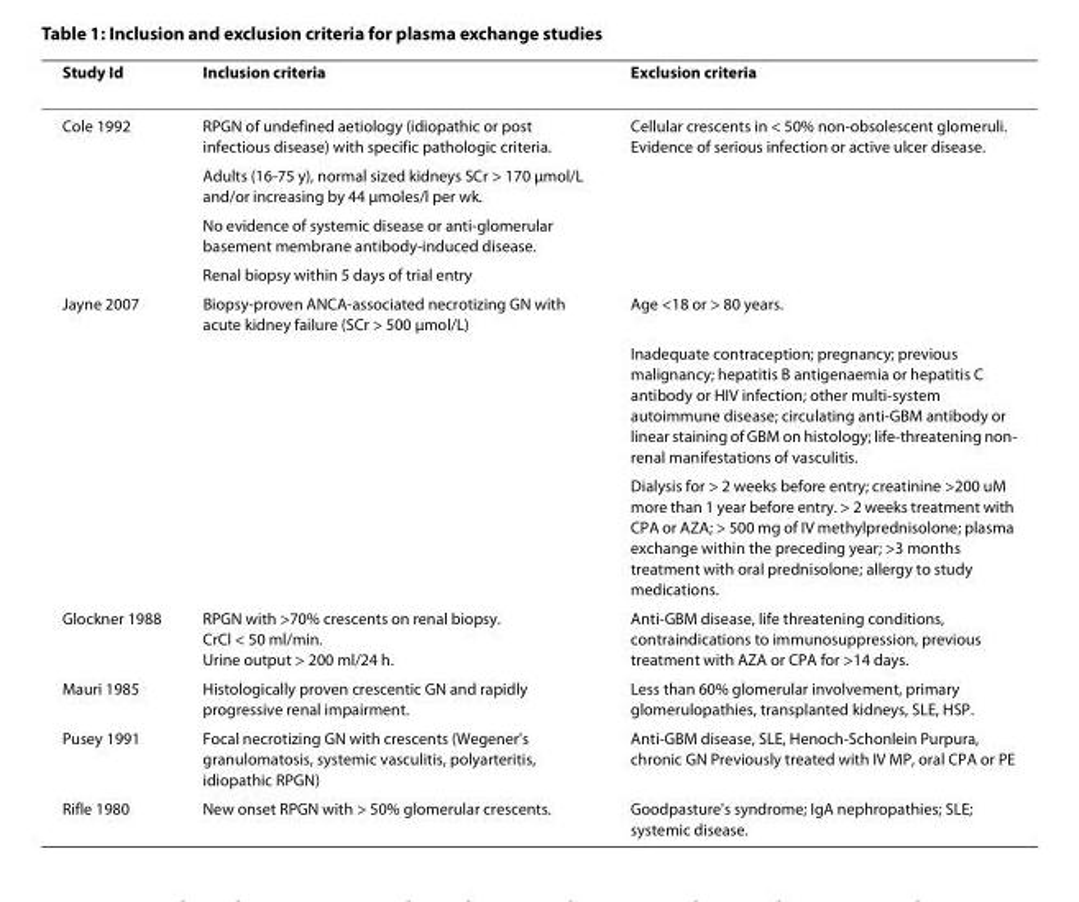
<table><thead><tr><td>Study Id</td><td>Inclusion criteria</td><td>Exclusion criteria</td></tr></thead><tbody><tr><td rowspan="4">Cole 1992</td><td>RPGN of undefined aetiology (idiopathic or post infectious disease) with specific pathologic criteria.</td><td>Cellular crescents in &lt; 50% non-obsolescent glomeruli. Evidence of serious infection or active ulcer disease.</td></tr><tr><td>Adults (16-75 y), normal sized kidneys SCr &gt; 170 μmol/L and/or increasing by 44 μmoles/l per wk.</td><td></td></tr><tr><td>No evidence of systemic disease or anti-glomerular basement membrane antibody-induced disease.</td><td></td></tr><tr><td>Renal biopsy within 5 days of trial entry</td><td></td></tr><tr><td rowspan="3">Jayne 2007</td><td>Biopsy-proven ANCA-associated necrotizing GN with acute kidney failure (SCr &gt; 500 μmol/L)</td><td>Age &lt;18 or &gt; 80 years.</td></tr><tr><td></td><td>Inadequate contraception; pregnancy; previous malignancy; hepatitis B antigenaemia or hepatitis C antibody or HIV infection; other multi-system autoimmune disease; circulating anti-GBM antibody or linear staining of GBM on histology; life-threatening non- renal manifestations of vasculitis.</td></tr><tr><td></td><td>Dialysis for &gt; 2 weeks before entry; creatinine &gt;200 uM more than 1 year before entry. &gt; 2 weeks treatment with CPA or AZA; &gt; 500 mg of IV methylprednisolone; plasma exchange within the preceding year; &gt;3 months treatment with oral prednisolone; allergy to study medications.</td></tr><tr><td>Glockner 1988</td><td>RPGN with &gt;70% crescents on renal biopsy. CrCl &lt; 50 ml/min. Urine output &gt; 200 ml/24 h.</td><td>Anti-GBM disease, life threatening conditions, contraindications to immunosuppression, previous treatment with AZA or CPA for &gt;14 days.</td></tr><tr><td>Mauri 1985</td><td>Histologically proven crescentic GN and rapidly progressive renal impairment.</td><td>Less than 60% glomerular involvement, primary glomerulopathies, transplanted kidneys, SLE, HSP.</td></tr><tr><td>Pusey 1991</td><td>Focal necrotizing GN with crescents (Wegener&#x27;s granulomatosis, systemic vasculitis, polyarteritis, idiopathic RPGN)</td><td>Anti-GBM disease, SLE, Henoch-Schonlein Purpura, chronic GN Previously treated with IV MP, oral CPA or PE</td></tr><tr><td>Rifle 1980</td><td>New onset RPGN with &gt; 50% glomerular crescents.</td><td>Goodpasture&#x27;s syndrome; IgA nephropathies; SLE; systemic disease.</td></tr></tbody></table>